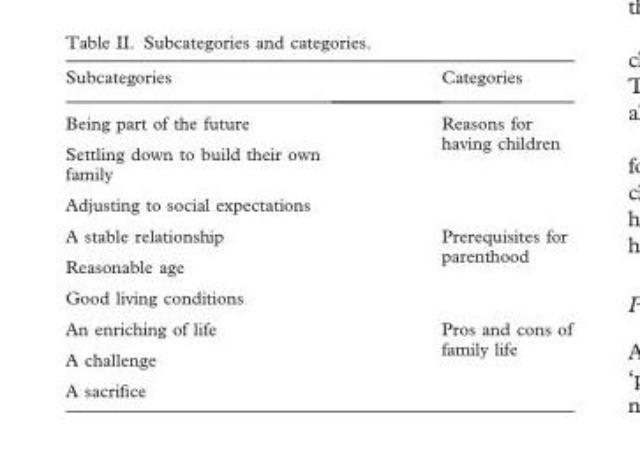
<table><thead><tr><td>Subcategories</td><td>Categories</td></tr></thead><tbody><tr><td>Being part of the future</td><td rowspan="3">Reasons for having children</td></tr><tr><td>Settling down to build their own family</td></tr><tr><td>Adjusting to social expectations</td></tr><tr><td>A stable relationship</td><td rowspan="3">Prerequisites for parenthood</td></tr><tr><td>Reasonable age</td></tr><tr><td>Good living conditions</td></tr><tr><td>An enriching of life</td><td rowspan="3">Pros and cons of family life</td></tr><tr><td>A challenge</td></tr><tr><td>A sacrifice</td></tr></tbody></table>